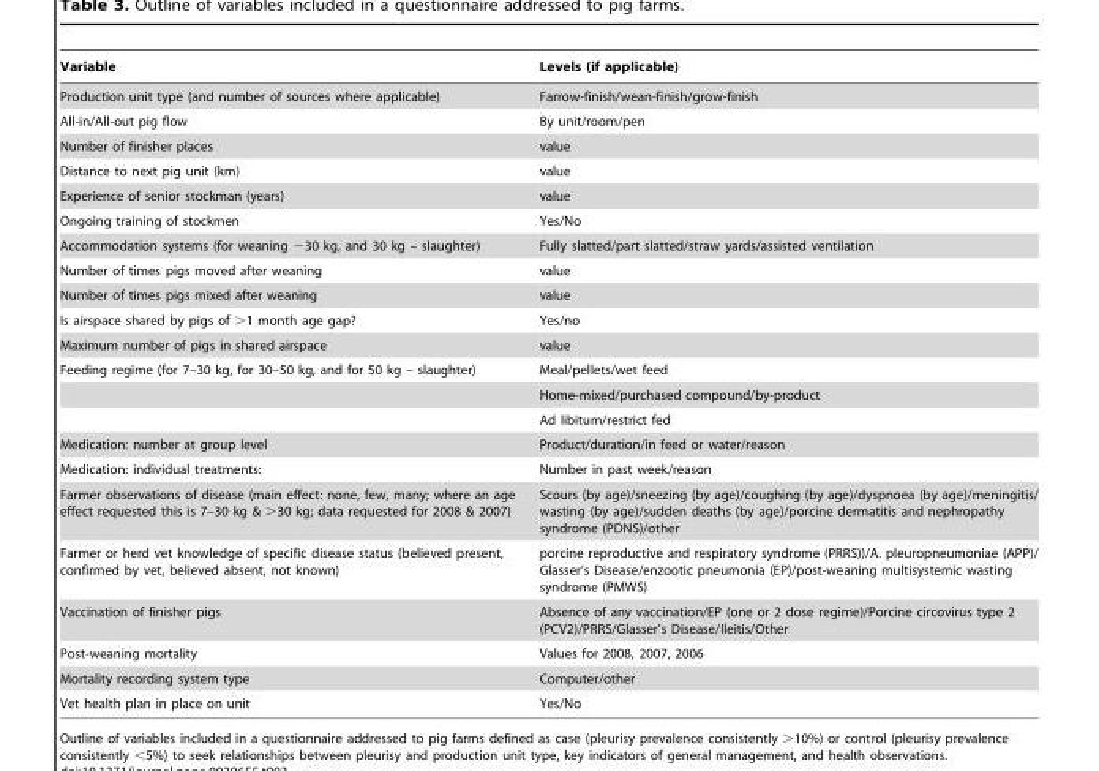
<table><thead><tr><td>Variable</td><td>Levels (if applicable)</td></tr></thead><tbody><tr><td>Production unit type (and number of sources where applicable)</td><td>Farrow-finish/wean-finish/grow-finish</td></tr><tr><td>All-in/All-out pig flow</td><td>By unit/room/pen</td></tr><tr><td>Number of finisher places</td><td>value</td></tr><tr><td>Distance to next pig unit (km)</td><td>value</td></tr><tr><td>Experience of senior stockman (years)</td><td>value</td></tr><tr><td>Ongoing training of stockmen</td><td>Yes/No</td></tr><tr><td>Accommodation systems (for weaning −30 kg, and 30 kg – slaughter)</td><td>Fully slatted/part slatted/straw yards/assisted ventilation</td></tr><tr><td>Number of times pigs moved after weaning</td><td>value</td></tr><tr><td>Number of times pigs mixed after weaning</td><td>value</td></tr><tr><td>Is airspace shared by pigs of &gt;1 month age gap?</td><td>Yes/no</td></tr><tr><td>Maximum number of pigs in shared airspace</td><td>value</td></tr><tr><td rowspan="3">Feeding regime (for 7–30 kg, for 30–50 kg, and for 50 kg – slaughter)</td><td>Meal/pellets/wet feed</td></tr><tr><td>Home-mixed/purchased compound/by-product</td></tr><tr><td>Ad libitum/restrict fed</td></tr><tr><td>Medication: number at group level</td><td>Product/duration/in feed or water/reason</td></tr><tr><td>Medication: individual treatments:</td><td>Number in past week/reason</td></tr><tr><td>Farmer observations of disease (main effect: none, few, many; where an age effect requested this is 7–30 kg &amp; &gt;30 kg; data requested for 2008 &amp; 2007)</td><td>Scours (by age)/sneezing (by age)/coughing (by age)/dyspnoea (by age)/meningitis/ wasting (by age)/sudden deaths (by age)/porcine dermatitis and nephropathy syndrome (PDNS)/other</td></tr><tr><td>Farmer or herd vet knowledge of specific disease status (believed present, confirmed by vet, believed absent, not known)</td><td>porcine reproductive and respiratory syndrome (PRRS))/A. pleuropneumoniae (APP)/ Glasser’s Disease/enzootic pneumonia (EP)/post-weaning multisystemic wasting syndrome (PMWS)</td></tr><tr><td>Vaccination of finisher pigs</td><td>Absence of any vaccination/EP (one or 2 dose regime)/Porcine circovirus type 2 (PCV2)/PRRS/Glasser’s Disease/Ileitis/Other</td></tr><tr><td>Post-weaning mortality</td><td>Values for 2008, 2007, 2006</td></tr><tr><td>Mortality recording system type</td><td>Computer/other</td></tr><tr><td>Vet health plan in place on unit</td><td>Yes/No</td></tr></tbody></table>